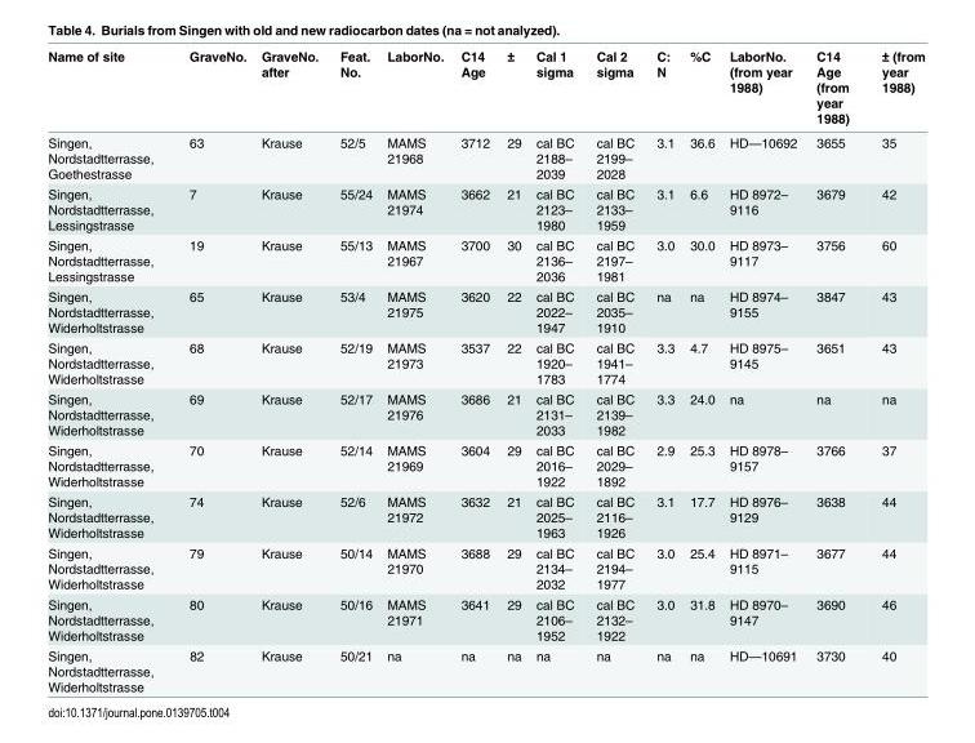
<table><thead><tr><td>Name of site</td><td>GraveNo.</td><td>GraveNo. after</td><td>Feat. No.</td><td>LaborNo.</td><td>C14 Age</td><td>±</td><td>Cal 1 sigma</td><td>Cal 2 sigma</td><td>C: N</td><td>%C</td><td>LaborNo. (from year 1988)</td><td>C14 Age (from year 1988)</td><td>± (from year 1988)</td></tr></thead><tbody><tr><td>Singen, Nordstadtterrasse, Goethestrasse</td><td>63</td><td>Krause</td><td>52/5</td><td>MAMS 21968</td><td>3712</td><td>29</td><td>cal BC 2188– 2039</td><td>cal BC 2199– 2028</td><td>3.1</td><td>36.6</td><td>HD—10692</td><td>3655</td><td>35</td></tr><tr><td>Singen, Nordstadtterrasse, Lessingstrasse</td><td>7</td><td>Krause</td><td>55/24</td><td>MAMS 21974</td><td>3662</td><td>21</td><td>cal BC 2123– 1980</td><td>cal BC 2133– 1959</td><td>3.1</td><td>6.6</td><td>HD 8972– 9116</td><td>3679</td><td>42</td></tr><tr><td>Singen, Nordstadtterrasse, Lessingstrasse</td><td>19</td><td>Krause</td><td>55/13</td><td>MAMS 21967</td><td>3700</td><td>30</td><td>cal BC 2136– 2036</td><td>cal BC 2197– 1981</td><td>3.0</td><td>30.0</td><td>HD 8973– 9117</td><td>3756</td><td>60</td></tr><tr><td>Singen, Nordstadtterrasse, Widerholtstrasse</td><td>65</td><td>Krause</td><td>53/4</td><td>MAMS 21975</td><td>3620</td><td>22</td><td>cal BC 2022– 1947</td><td>cal BC 2035– 1910</td><td>na</td><td>na</td><td>HD 8974– 9155</td><td>3847</td><td>43</td></tr><tr><td>Singen, Nordstadtterrasse, Widerholtstrasse</td><td>68</td><td>Krause</td><td>52/19</td><td>MAMS 21973</td><td>3537</td><td>22</td><td>cal BC 1920– 1783</td><td>cal BC 1941– 1774</td><td>3.3</td><td>4.7</td><td>HD 8975– 9145</td><td>3651</td><td>43</td></tr><tr><td>Singen, Nordstadtterrasse, Widerholtstrasse</td><td>69</td><td>Krause</td><td>52/17</td><td>MAMS 21976</td><td>3686</td><td>21</td><td>cal BC 2131– 2033</td><td>cal BC 2139– 1982</td><td>3.3</td><td>24.0</td><td>na</td><td>na</td><td>na</td></tr><tr><td>Singen, Nordstadtterrasse, Widerholtstrasse</td><td>70</td><td>Krause</td><td>52/14</td><td>MAMS 21969</td><td>3604</td><td>29</td><td>cal BC 2016– 1922</td><td>cal BC 2029– 1892</td><td>2.9</td><td>25.3</td><td>HD 8978– 9157</td><td>3766</td><td>37</td></tr><tr><td>Singen, Nordstadtterrasse, Widerholtstrasse</td><td>74</td><td>Krause</td><td>52/6</td><td>MAMS 21972</td><td>3632</td><td>21</td><td>cal BC 2025– 1963</td><td>cal BC 2116– 1926</td><td>3.1</td><td>17.7</td><td>HD 8976– 9129</td><td>3638</td><td>44</td></tr><tr><td>Singen, Nordstadtterrasse, Widerholtstrasse</td><td>79</td><td>Krause</td><td>50/14</td><td>MAMS 21970</td><td>3688</td><td>29</td><td>cal BC 2134– 2032</td><td>cal BC 2194– 1977</td><td>3.0</td><td>25.4</td><td>HD 8971– 9115</td><td>3677</td><td>44</td></tr><tr><td>Singen, Nordstadtterrasse, Widerholtstrasse</td><td>80</td><td>Krause</td><td>50/16</td><td>MAMS 21971</td><td>3641</td><td>29</td><td>cal BC 2106– 1952</td><td>cal BC 2132– 1922</td><td>3.0</td><td>31.8</td><td>HD 8970– 9147</td><td>3690</td><td>46</td></tr><tr><td>Singen, Nordstadtterrasse, Widerholtstrasse</td><td>82</td><td>Krause</td><td>50/21</td><td>na</td><td>na</td><td>na</td><td>na</td><td>na</td><td>na</td><td>na</td><td>HD—10691</td><td>3730</td><td>40</td></tr></tbody></table>